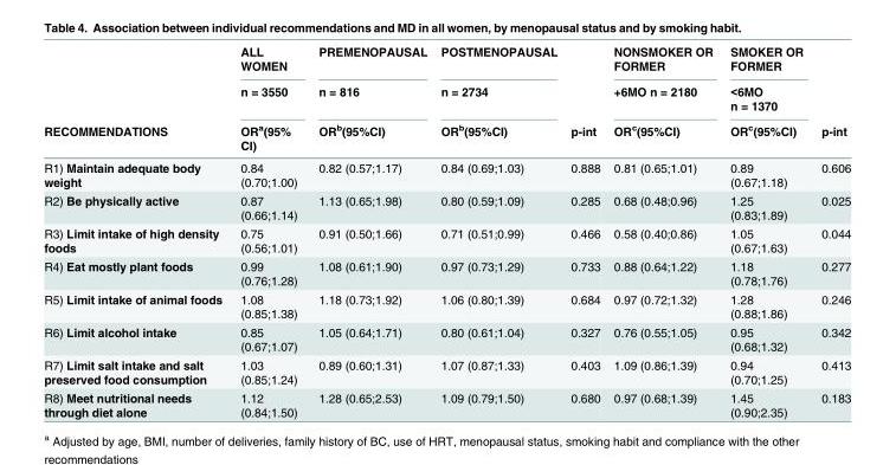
<table><thead><tr><td rowspan="3">RECOMMENDATIONS</td><td rowspan="3">ALL WOMEN n = 3550 OR<sup>a</sup>(95% CI)</td><td rowspan="3">PREMENOPAUSAL n = 816 OR<sup>b</sup>(95%CI)</td><td rowspan="3">POSTMENOPAUSAL n = 2734 OR<sup>b</sup>(95%CI)</td><td rowspan="3">p-int</td><td rowspan="3">NONSMOKER OR FORMER +6MO n = 2180 OR<sup>c</sup>(95%CI)</td><td rowspan="3">SMOKER OR FORMER &lt;6MO n = 1370 OR<sup>c</sup>(95%CI)</td><td rowspan="3">p-int</td></tr><tr></tr><tr></tr></thead><tbody><tr><td>R1) Maintain adequate body weight</td><td>0.84 (0.70;1.00)</td><td>0.82 (0.57;1.17)</td><td>0.84 (0.69;1.03)</td><td>0.888</td><td>0.81 (0.65;1.01)</td><td>0.89 (0.67;1.18)</td><td>0.606</td></tr><tr><td>R2) Be physically active</td><td>0.87 (0.66;1.14)</td><td>1.13 (0.65;1.98)</td><td>0.80 (0.59;1.09)</td><td>0.285</td><td>0.68 (0.48;0.96)</td><td>1.25 (0.83;1.89)</td><td>0.025</td></tr><tr><td>R3) Limit intake of high density foods</td><td>0.75 (0.56;1.01)</td><td>0.91 (0.50;1.66)</td><td>0.71 (0.51;0.99)</td><td>0.466</td><td>0.58 (0.40;0.86)</td><td>1.05 (0.67;1.63)</td><td>0.044</td></tr><tr><td>R4) Eat mostly plant foods</td><td>0.99 (0.76;1.28)</td><td>1.08 (0.61;1.90)</td><td>0.97 (0.73;1.29)</td><td>0.733</td><td>0.88 (0.64;1.22)</td><td>1.18 (0.78;1.76)</td><td>0.277</td></tr><tr><td>R5) Limit intake of animal foods</td><td>1.08 (0.85;1.38)</td><td>1.18 (0.73;1.92)</td><td>1.06 (0.80;1.39)</td><td>0.684</td><td>0.97 (0.72;1.32)</td><td>1.28 (0.88;1.86)</td><td>0.246</td></tr><tr><td>R6) Limit alcohol intake</td><td>0.85 (0.67;1.07)</td><td>1.05 (0.64;1.71)</td><td>0.80 (0.61;1.04)</td><td>0.327</td><td>0.76 (0.55;1.05)</td><td>0.95 (0.68;1.32)</td><td>0.342</td></tr><tr><td>R7) Limit salt intake and salt preserved food consumption</td><td>1.03 (0.85;1.24)</td><td>0.89 (0.60;1.31)</td><td>1.07 (0.87;1.33)</td><td>0.403</td><td>1.09 (0.86;1.39)</td><td>0.94 (0.70;1.25)</td><td>0.413</td></tr><tr><td>R8) Meet nutritional needs through diet alone</td><td>1.12 (0.84;1.50)</td><td>1.28 (0.65;2.53)</td><td>1.09 (0.79;1.50)</td><td>0.680</td><td>0.97 (0.68;1.39)</td><td>1.45 (0.90;2.35)</td><td>0.183</td></tr></tbody></table>